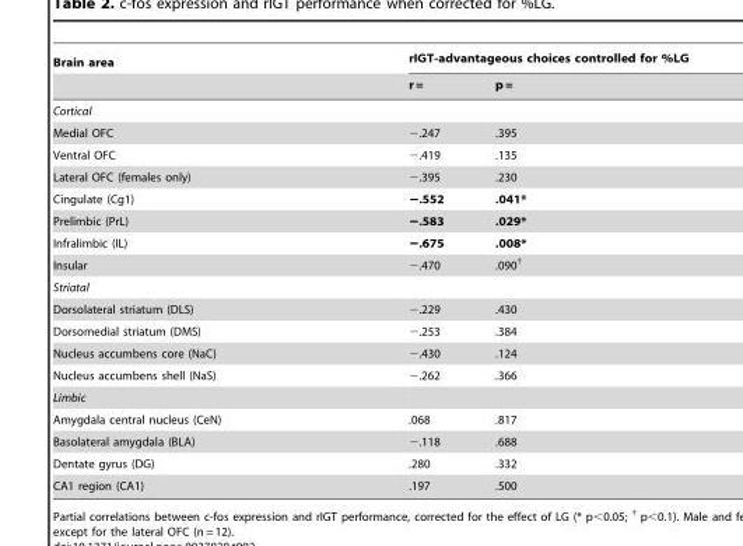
<table><thead><tr><td rowspan="2">Brain area</td><td colspan="2">rIGT-advantageous choices controlled for %LG</td></tr><tr><td>r =</td><td>p =</td></tr></thead><tbody><tr><td colspan="3">Cortical</td></tr><tr><td>Medial OFC</td><td>−.247</td><td>.395</td></tr><tr><td>Ventral OFC</td><td>−.419</td><td>.135</td></tr><tr><td>Lateral OFC (females only)</td><td>−.395</td><td>.230</td></tr><tr><td>Cingulate (Cg1)</td><td>−.552</td><td>.041*</td></tr><tr><td>Prelimbic (PrL)</td><td>−.583</td><td>.029*</td></tr><tr><td>Infralimbic (IL)</td><td>−.675</td><td>.008*</td></tr><tr><td>Insular</td><td>−.470</td><td>.090<sup>†</sup></td></tr><tr><td colspan="3">Striatal</td></tr><tr><td>Dorsolateral striatum (DLS)</td><td>−.229</td><td>.430</td></tr><tr><td>Dorsomedial striatum (DMS)</td><td>−.253</td><td>.384</td></tr><tr><td>Nucleus accumbens core (NaC)</td><td>−.430</td><td>.124</td></tr><tr><td>Nucleus accumbens shell (NaS)</td><td>−.262</td><td>.366</td></tr><tr><td colspan="3">Limbic</td></tr><tr><td>Amygdala central nucleus (CeN)</td><td>.068</td><td>.817</td></tr><tr><td>Basolateral amygdala (BLA)</td><td>−.118</td><td>.688</td></tr><tr><td>Dentate gyrus (DG)</td><td>.280</td><td>.332</td></tr><tr><td>CA1 region (CA1)</td><td>.197</td><td>.500</td></tr></tbody></table>